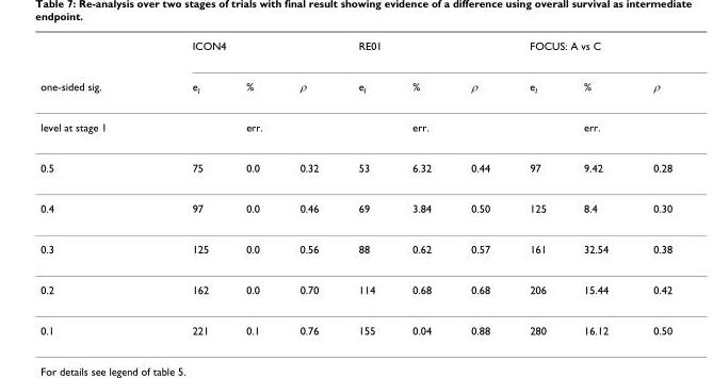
<table><thead><tr><td rowspan="2">one-sided sig.</td><td colspan="3">ICON4</td><td colspan="3">RE01</td><td colspan="3">FOCUS: A vs C</td></tr><tr><td>e<sub>I</sub></td><td>%</td><td>ρ</td><td>e<sub>I</sub></td><td>%</td><td>ρ</td><td>e<sub>I</sub></td><td>%</td><td>ρ</td></tr></thead><tbody><tr><td>level at stage 1</td><td></td><td>err.</td><td></td><td></td><td>err.</td><td></td><td></td><td>err.</td><td></td></tr><tr><td>0.5</td><td>75</td><td>0.0</td><td>0.32</td><td>53</td><td>6.32</td><td>0.44</td><td>97</td><td>9.42</td><td>0.28</td></tr><tr><td>0.4</td><td>97</td><td>0.0</td><td>0.46</td><td>69</td><td>3.84</td><td>0.50</td><td>125</td><td>8.4</td><td>0.30</td></tr><tr><td>0.3</td><td>125</td><td>0.0</td><td>0.56</td><td>88</td><td>0.62</td><td>0.57</td><td>161</td><td>32.54</td><td>0.38</td></tr><tr><td>0.2</td><td>162</td><td>0.0</td><td>0.70</td><td>114</td><td>0.68</td><td>0.68</td><td>206</td><td>15.44</td><td>0.42</td></tr><tr><td>0.1</td><td>221</td><td>0.1</td><td>0.76</td><td>155</td><td>0.04</td><td>0.88</td><td>280</td><td>16.12</td><td>0.50</td></tr></tbody></table>